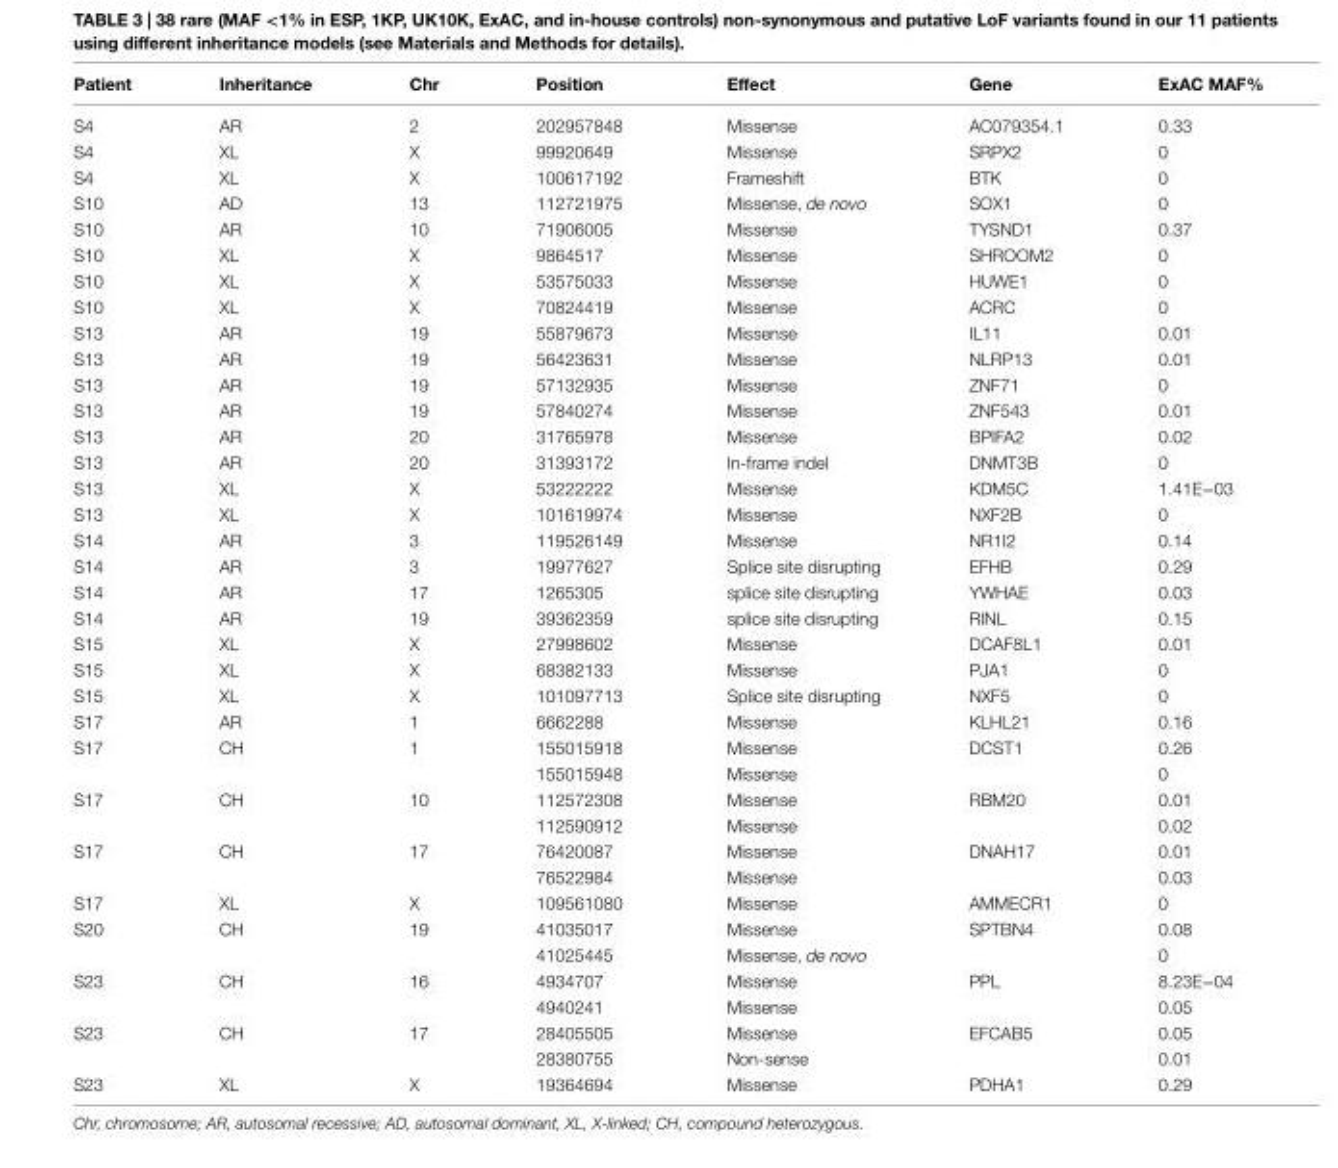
<table><thead><tr><td>Patient</td><td>inheritance</td><td>chr</td><td>Position</td><td>effect</td><td>gene</td><td>exac MaF%</td></tr></thead><tbody><tr><td>S4</td><td>AR</td><td>2</td><td>202957848</td><td>Missense</td><td>AC079354.1</td><td>0.33</td></tr><tr><td>S4</td><td>XL</td><td>X</td><td>99920649</td><td>Missense</td><td>SRPX2</td><td>0</td></tr><tr><td>S4</td><td>XL</td><td>X</td><td>100617192</td><td>Frameshift</td><td>BTK</td><td>0</td></tr><tr><td>S10</td><td>AD</td><td>13</td><td>112721975</td><td>Missense, de novo</td><td>SOX1</td><td>0</td></tr><tr><td>S10</td><td>AR</td><td>10</td><td>71906005</td><td>Missense</td><td>TYSND1</td><td>0.37</td></tr><tr><td>S10</td><td>XL</td><td>X</td><td>9864517</td><td>Missense</td><td>SHROOM2</td><td>0</td></tr><tr><td>S10</td><td>XL</td><td>X</td><td>53575033</td><td>Missense</td><td>HUWE1</td><td>0</td></tr><tr><td>S10</td><td>XL</td><td>X</td><td>70824419</td><td>Missense</td><td>ACRC</td><td>0</td></tr><tr><td>S13</td><td>AR</td><td>19</td><td>55879673</td><td>Missense</td><td>IL11</td><td>0.01</td></tr><tr><td>S13</td><td>AR</td><td>19</td><td>56423631</td><td>Missense</td><td>NLRP13</td><td>0.01</td></tr><tr><td>S13</td><td>AR</td><td>19</td><td>57132935</td><td>Missense</td><td>ZNF71</td><td>0</td></tr><tr><td>S13</td><td>AR</td><td>19</td><td>57840274</td><td>Missense</td><td>ZNF543</td><td>0.01</td></tr><tr><td>S13</td><td>AR</td><td>20</td><td>31765978</td><td>Missense</td><td>BPIFA2</td><td>0.02</td></tr><tr><td>S13</td><td>AR</td><td>20</td><td>31393172</td><td>In-frame indel</td><td>DNMT3B</td><td>0</td></tr><tr><td>S13</td><td>XL</td><td>X</td><td>53222222</td><td>Missense</td><td>KDM5C</td><td>1.41E−03</td></tr><tr><td>S13</td><td>XL</td><td>X</td><td>101619974</td><td>Missense</td><td>NXF2B</td><td>0</td></tr><tr><td>S14</td><td>AR</td><td>3</td><td>119526149</td><td>Missense</td><td>NR1I2</td><td>0.14</td></tr><tr><td>S14</td><td>AR</td><td>3</td><td>19977627</td><td>Splice site disrupting</td><td>EFHB</td><td>0.29</td></tr><tr><td>S14</td><td>AR</td><td>17</td><td>1265305</td><td>splice site disrupting</td><td>YWHAE</td><td>0.03</td></tr><tr><td>S14</td><td>AR</td><td>19</td><td>39362359</td><td>splice site disrupting</td><td>RINL</td><td>0.15</td></tr><tr><td>S15</td><td>XL</td><td>X</td><td>27998602</td><td>Missense</td><td>DCAF8L1</td><td>0.01</td></tr><tr><td>S15</td><td>XL</td><td>X</td><td>68382133</td><td>Missense</td><td>PJA1</td><td>0</td></tr><tr><td>S15</td><td>XL</td><td>X</td><td>101097713</td><td>Splice site disrupting</td><td>NXF5</td><td>0</td></tr><tr><td>S17</td><td>AR</td><td>1</td><td>6662288</td><td>Missense</td><td>KLHL21</td><td>0.16</td></tr><tr><td rowspan="2">S17</td><td rowspan="2">CH</td><td rowspan="2">1</td><td>155015918</td><td>Missense</td><td rowspan="2">DCST1</td><td>0.26</td></tr><tr><td>155015948</td><td>Missense</td><td>0</td></tr><tr><td rowspan="2">S17</td><td rowspan="2">CH</td><td rowspan="2">10</td><td>112572308</td><td>Missense</td><td rowspan="2">RBM20</td><td>0.01</td></tr><tr><td>112590912</td><td>Missense</td><td>0.02</td></tr><tr><td rowspan="2">S17</td><td rowspan="2">CH</td><td rowspan="2">17</td><td>76420087</td><td>Missense</td><td rowspan="2">DNAH17</td><td>0.01</td></tr><tr><td>76522984</td><td>Missense</td><td>0.03</td></tr><tr><td>S17</td><td>XL</td><td>X</td><td>109561080</td><td>Missense</td><td>AMMECR1</td><td>0</td></tr><tr><td rowspan="2">S20</td><td rowspan="2">CH</td><td rowspan="2">19</td><td>41035017</td><td>Missense</td><td rowspan="2">SPTBN4</td><td>0.08</td></tr><tr><td>41025445</td><td>Missense, de novo</td><td>0</td></tr><tr><td rowspan="2">S23</td><td rowspan="2">CH</td><td rowspan="2">16</td><td>4934707</td><td>Missense</td><td rowspan="2">PPL</td><td>8.23E−04</td></tr><tr><td>4940241</td><td>Missense</td><td>0.05</td></tr><tr><td rowspan="2">S23</td><td rowspan="2">CH</td><td rowspan="2">17</td><td>28405505</td><td>Missense</td><td rowspan="2">EFCAB5</td><td>0.05</td></tr><tr><td>28380755</td><td>Non-sense</td><td>0.01</td></tr><tr><td>S23</td><td>XL</td><td>X</td><td>19364694</td><td>Missense</td><td>PDHA1</td><td>0.29</td></tr></tbody></table>